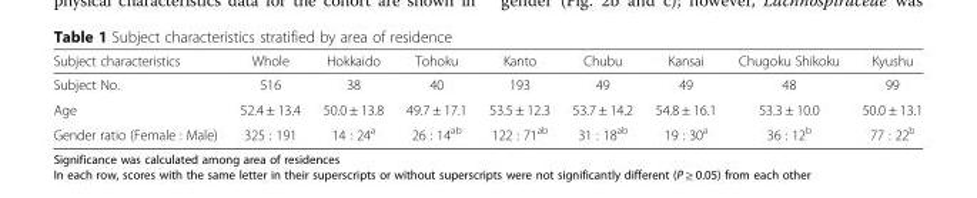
<table><thead><tr><td>Subject characteristics</td><td>Whole</td><td>Hokkaido</td><td>Tohoku</td><td>Kanto</td><td>Chubu</td><td>Kansai</td><td>Chugoku Shikoku</td><td>Kyushu</td></tr></thead><tbody><tr><td>Subject No.</td><td>516</td><td>38</td><td>40</td><td>193</td><td>49</td><td>49</td><td>48</td><td>99</td></tr><tr><td>Age</td><td>52.4 ± 13.4</td><td>50.0 ± 13.8</td><td>49.7 ± 17.1</td><td>53.5 ± 12.3</td><td>53.7 ± 14.2</td><td>54.8 ± 16.1</td><td>53.3 ± 10.0</td><td>50.0 ± 13.1</td></tr><tr><td>Gender ratio (Female : Male)</td><td>325 : 191</td><td>14 : 24<sup>a</sup></td><td>26 : 14<sup>ab</sup></td><td>122 : 71<sup>ab</sup></td><td>31 : 18<sup>ab</sup></td><td>19 : 30<sup>a</sup></td><td>36 : 12<sup>b</sup></td><td>77 : 22<sup>b</sup></td></tr></tbody></table>